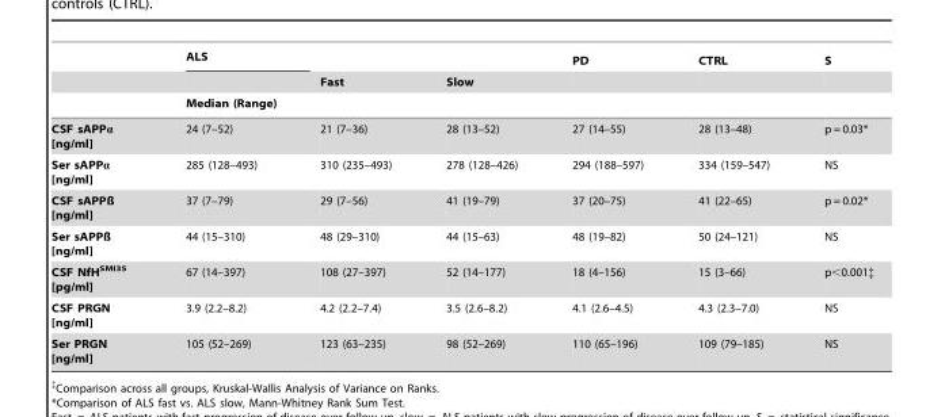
<table><thead><tr><td rowspan="3"></td><td rowspan="2">ALS</td><td rowspan="2">Fast</td><td rowspan="3">Slow</td><td rowspan="3">PD</td><td rowspan="3">CTRL</td><td rowspan="3">S</td></tr><tr></tr><tr><td colspan="2">Median (Range)</td></tr></thead><tbody><tr><td>CSF sAPPα [ng/ml]</td><td>24 (7–52)</td><td>21 (7–36)</td><td>28 (13–52)</td><td>27 (14–55)</td><td>28 (13–48)</td><td>p = 0.03*</td></tr><tr><td>Ser sAPPα [ng/ml]</td><td>285 (128–493)</td><td>310 (235–493)</td><td>278 (128–426)</td><td>294 (188–597)</td><td>334 (159–547)</td><td>NS</td></tr><tr><td>CSF sAPPß [ng/ml]</td><td>37 (7–79)</td><td>29 (7–56)</td><td>41 (19–79)</td><td>37 (20–75)</td><td>41 (22–65)</td><td>p = 0.02*</td></tr><tr><td>Ser sAPPß [ng/ml]</td><td>44 (15–310)</td><td>48 (29–310)</td><td>44 (15–63)</td><td>48 (19–82)</td><td>50 (24–121)</td><td>NS</td></tr><tr><td>CSF NfH<sup>SMI35</sup> [pg/ml]</td><td>67 (14–397)</td><td>108 (27–397)</td><td>52 (14–177)</td><td>18 (4–156)</td><td>15 (3–66)</td><td>p&lt;0.001‡</td></tr><tr><td>CSF PRGN [ng/ml]</td><td>3.9 (2.2–8.2)</td><td>4.2 (2.2–7.4)</td><td>3.5 (2.6–8.2)</td><td>4.1 (2.6–4.5)</td><td>4.3 (2.3–7.0)</td><td>NS</td></tr><tr><td>Ser PRGN [ng/ml]</td><td>105 (52–269)</td><td>123 (63–235)</td><td>98 (52–269)</td><td>110 (65–196)</td><td>109 (79–185)</td><td>NS</td></tr></tbody></table>